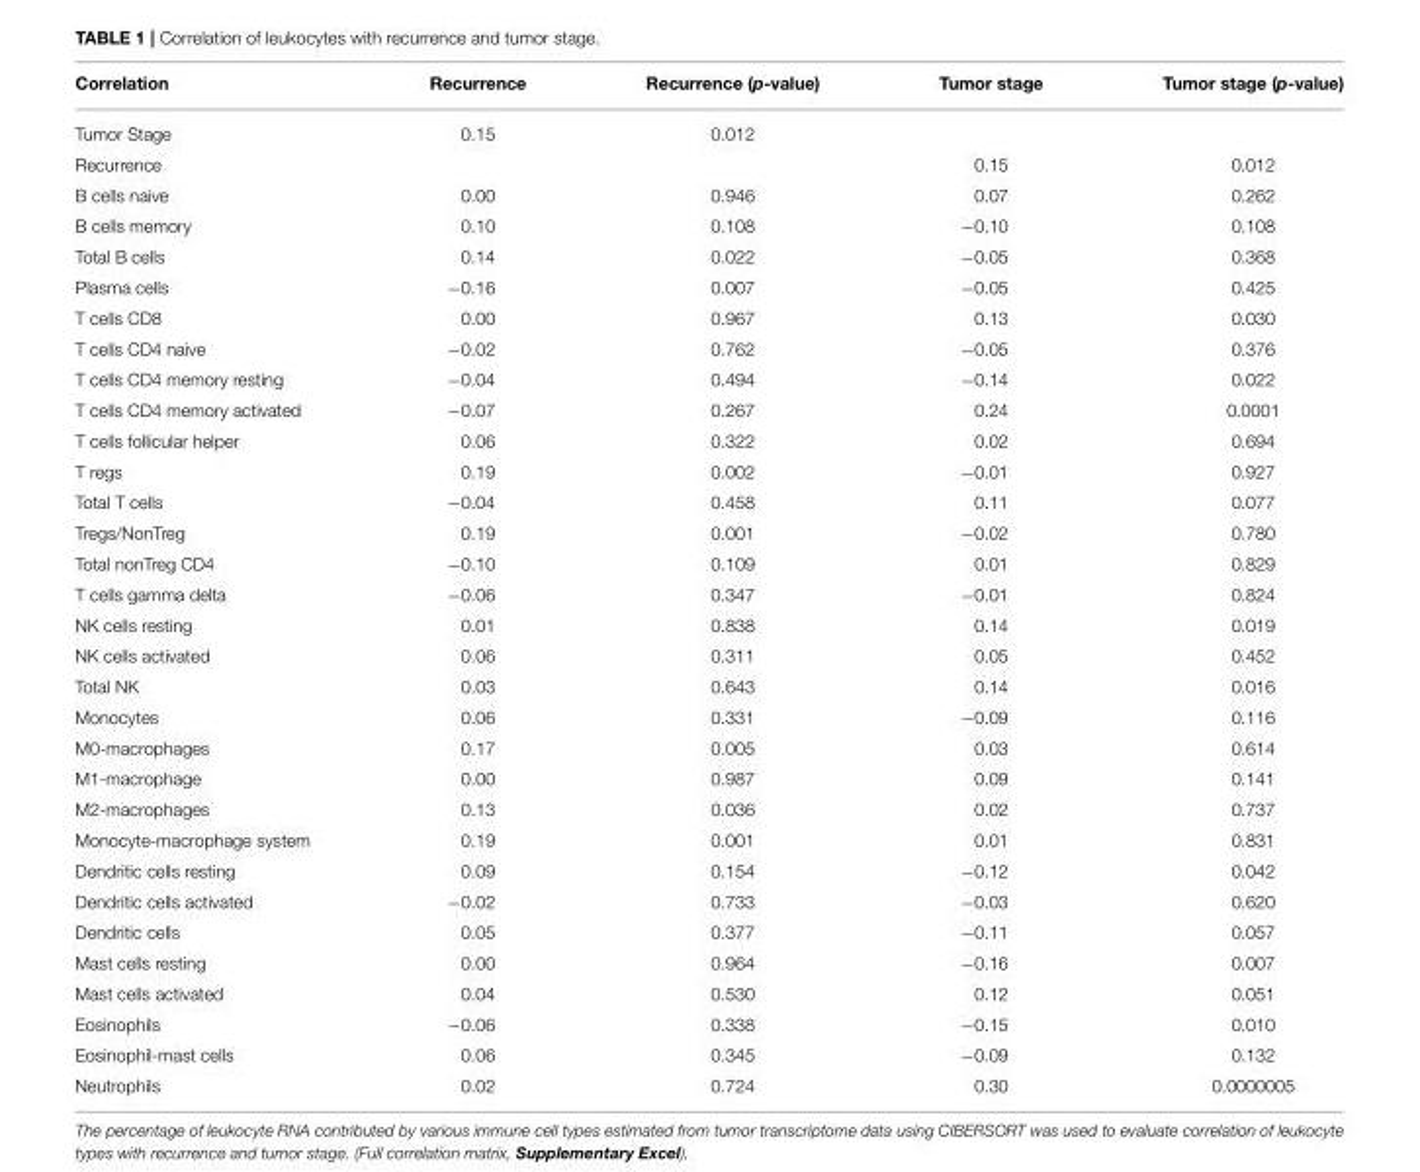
<table><thead><tr><td>Correlation</td><td>Recurrence</td><td>Recurrence (p-value)</td><td>Tumor stage</td><td>Tumor stage (p-value)</td></tr></thead><tbody><tr><td>Tumor Stage</td><td>0.15</td><td>0.012</td><td></td><td></td></tr><tr><td>Recurrence</td><td></td><td></td><td>0.15</td><td>0.012</td></tr><tr><td>B cells naive</td><td>0.00</td><td>0.946</td><td>0.07</td><td>0.262</td></tr><tr><td>B cells memory</td><td>0.10</td><td>0.108</td><td>−0.10</td><td>0.108</td></tr><tr><td>Total B cells</td><td>0.14</td><td>0.022</td><td>−0.05</td><td>0.368</td></tr><tr><td>Plasma cells</td><td>−0.16</td><td>0.007</td><td>−0.05</td><td>0.425</td></tr><tr><td>T cells CD8</td><td>0.00</td><td>0.967</td><td>0.13</td><td>0.030</td></tr><tr><td>T cells CD4 naive</td><td>−0.02</td><td>0.762</td><td>−0.05</td><td>0.376</td></tr><tr><td>T cells CD4 memory resting</td><td>−0.04</td><td>0.494</td><td>−0.14</td><td>0.022</td></tr><tr><td>T cells CD4 memory activated</td><td>−0.07</td><td>0.267</td><td>0.24</td><td>0.0001</td></tr><tr><td>T cells follicular helper</td><td>0.06</td><td>0.322</td><td>0.02</td><td>0.694</td></tr><tr><td>T regs</td><td>0.19</td><td>0.002</td><td>−0.01</td><td>0.927</td></tr><tr><td>Total T cells</td><td>−0.04</td><td>0.458</td><td>0.11</td><td>0.077</td></tr><tr><td>Tregs/NonTreg</td><td>0.19</td><td>0.001</td><td>−0.02</td><td>0.780</td></tr><tr><td>Total nonTreg CD4</td><td>−0.10</td><td>0.109</td><td>0.01</td><td>0.829</td></tr><tr><td>T cells gamma delta</td><td>−0.06</td><td>0.347</td><td>−0.01</td><td>0.824</td></tr><tr><td>NK cells resting</td><td>0.01</td><td>0.838</td><td>0.14</td><td>0.019</td></tr><tr><td>NK cells activated</td><td>0.06</td><td>0.311</td><td>0.05</td><td>0.452</td></tr><tr><td>Total NK</td><td>0.03</td><td>0.643</td><td>0.14</td><td>0.016</td></tr><tr><td>Monocytes</td><td>0.06</td><td>0.331</td><td>−0.09</td><td>0.116</td></tr><tr><td>M0-macrophages</td><td>0.17</td><td>0.005</td><td>0.03</td><td>0.614</td></tr><tr><td>M1-macrophage</td><td>0.00</td><td>0.987</td><td>0.09</td><td>0.141</td></tr><tr><td>M2-macrophages</td><td>0.13</td><td>0.036</td><td>0.02</td><td>0.737</td></tr><tr><td>Monocyte-macrophage system</td><td>0.19</td><td>0.001</td><td>0.01</td><td>0.831</td></tr><tr><td>Dendritic cells resting</td><td>0.09</td><td>0.154</td><td>−0.12</td><td>0.042</td></tr><tr><td>Dendritic cells activated</td><td>−0.02</td><td>0.733</td><td>−0.03</td><td>0.620</td></tr><tr><td>Dendritic cells</td><td>0.05</td><td>0.377</td><td>−0.11</td><td>0.057</td></tr><tr><td>Mast cells resting</td><td>0.00</td><td>0.964</td><td>−0.16</td><td>0.007</td></tr><tr><td>Mast cells activated</td><td>0.04</td><td>0.530</td><td>0.12</td><td>0.051</td></tr><tr><td>Eosinophils</td><td>−0.06</td><td>0.338</td><td>−0.15</td><td>0.010</td></tr><tr><td>Eosinophil-mast cells</td><td>0.06</td><td>0.345</td><td>−0.09</td><td>0.132</td></tr><tr><td>Neutrophils</td><td>0.02</td><td>0.724</td><td>0.30</td><td>0.0000005</td></tr></tbody></table>